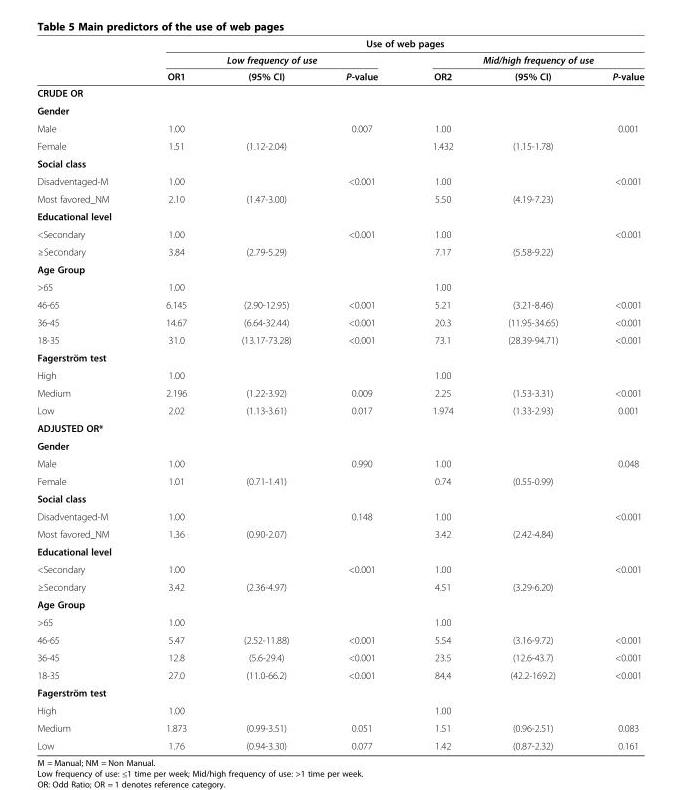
<table><thead><tr><td rowspan="3"></td><td colspan="6">Use of web pages</td></tr><tr><td colspan="3">Low frequency of use</td><td colspan="3">Mid/high frequency of use</td></tr><tr><td>OR1</td><td>(95% CI)</td><td>P-value</td><td>OR2</td><td>(95% CI)</td><td>P-value</td></tr></thead><tbody><tr><td colspan="7">CRUDE OR</td></tr><tr><td colspan="7">Gender</td></tr><tr><td>Male</td><td>1.00</td><td></td><td>0.007</td><td>1.00</td><td></td><td>0.001</td></tr><tr><td>Female</td><td>1.51</td><td>(1.12-2.04)</td><td></td><td>1.432</td><td>(1.15-1.78)</td><td></td></tr><tr><td colspan="7">Social class</td></tr><tr><td>Disadventaged-M</td><td>1.00</td><td></td><td>&lt;0.001</td><td>1.00</td><td></td><td>&lt;0.001</td></tr><tr><td>Most favored_NM</td><td>2.10</td><td>(1.47-3.00)</td><td></td><td>5.50</td><td>(4.19-7.23)</td><td></td></tr><tr><td colspan="7">Educational level</td></tr><tr><td>&lt;Secondary</td><td>1.00</td><td></td><td>&lt;0.001</td><td>1.00</td><td></td><td>&lt;0.001</td></tr><tr><td>≥Secondary</td><td>3.84</td><td>(2.79-5.29)</td><td></td><td>7.17</td><td>(5.58-9.22)</td><td></td></tr><tr><td colspan="7">Age Group</td></tr><tr><td>&gt;65</td><td>1.00</td><td></td><td></td><td>1.00</td><td></td><td></td></tr><tr><td>46-65</td><td>6.145</td><td>(2.90-12.95)</td><td>&lt;0.001</td><td>5.21</td><td>(3.21-8.46)</td><td>&lt;0.001</td></tr><tr><td>36-45</td><td>14.67</td><td>(6.64-32.44)</td><td>&lt;0.001</td><td>20.3</td><td>(11.95-34.65)</td><td>&lt;0.001</td></tr><tr><td>18-35</td><td>31.0</td><td>(13.17-73.28)</td><td>&lt;0.001</td><td>73.1</td><td>(28.39-94.71)</td><td>&lt;0.001</td></tr><tr><td colspan="7">Fagerström test</td></tr><tr><td>High</td><td>1.00</td><td></td><td></td><td>1.00</td><td></td><td></td></tr><tr><td>Medium</td><td>2.196</td><td>(1.22-3.92)</td><td>0.009</td><td>2.25</td><td>(1.53-3.31)</td><td>&lt;0.001</td></tr><tr><td>Low</td><td>2.02</td><td>(1.13-3.61)</td><td>0.017</td><td>1.974</td><td>(1.33-2.93)</td><td>0.001</td></tr><tr><td colspan="7">ADJUSTED OR*</td></tr><tr><td colspan="7">Gender</td></tr><tr><td>Male</td><td>1.00</td><td></td><td>0.990</td><td>1.00</td><td></td><td>0.048</td></tr><tr><td>Female</td><td>1.01</td><td>(0.71-1.41)</td><td></td><td>0.74</td><td>(0.55-0.99)</td><td></td></tr><tr><td colspan="7">Social class</td></tr><tr><td>Disadventaged-M</td><td>1.00</td><td></td><td>0.148</td><td>1.00</td><td></td><td>&lt;0.001</td></tr><tr><td>Most favored_NM</td><td>1.36</td><td>(0.90-2.07)</td><td></td><td>3.42</td><td>(2.42-4.84)</td><td></td></tr><tr><td colspan="7">Educational level</td></tr><tr><td>&lt;Secondary</td><td>1.00</td><td></td><td>&lt;0.001</td><td>1.00</td><td></td><td>&lt;0.001</td></tr><tr><td>≥Secondary</td><td>3.42</td><td>(2.36-4.97)</td><td></td><td>4.51</td><td>(3.29-6.20)</td><td></td></tr><tr><td colspan="7">Age Group</td></tr><tr><td>&gt;65</td><td>1.00</td><td></td><td></td><td>1.00</td><td></td><td></td></tr><tr><td>46-65</td><td>5.47</td><td>(2.52-11.88)</td><td>&lt;0.001</td><td>5.54</td><td>(3.16-9.72)</td><td>&lt;0.001</td></tr><tr><td>36-45</td><td>12.8</td><td>(5.6-29.4)</td><td>&lt;0.001</td><td>23.5</td><td>(12.6-43.7)</td><td>&lt;0.001</td></tr><tr><td>18-35</td><td>27.0</td><td>(11.0-66.2)</td><td>&lt;0.001</td><td>84,4</td><td>(42.2-169.2)</td><td>&lt;0.001</td></tr><tr><td colspan="7">Fagerström test</td></tr><tr><td>High</td><td>1.00</td><td></td><td></td><td>1.00</td><td></td><td></td></tr><tr><td>Medium</td><td>1.873</td><td>(0.99-3.51)</td><td>0.051</td><td>1.51</td><td>(0.96-2.51)</td><td>0.083</td></tr><tr><td>Low</td><td>1.76</td><td>(0.94-3.30)</td><td>0.077</td><td>1.42</td><td>(0.87-2.32)</td><td>0.161</td></tr></tbody></table>